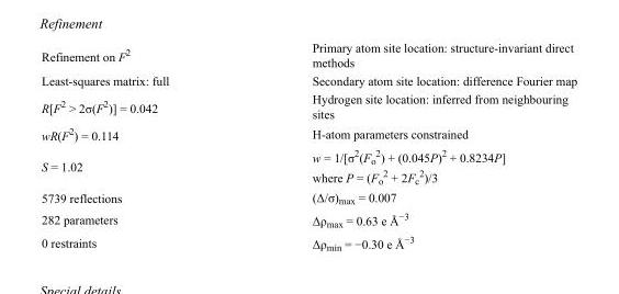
<table><tbody><tr><td>Refinement on F<sup>2</sup></td><td>Primary atom site location: structure-invariant direct methods</td></tr><tr><td>Least-squares matrix: full</td><td>Secondary atom site location: difference Fourier map</td></tr><tr><td>R[F<sup>2</sup> &gt; 2σ(F<sup>2</sup>)] = 0.042</td><td>Hydrogen site location: inferred from neighbouring sites</td></tr><tr><td>wR(F<sup>2</sup>) = 0.114</td><td>H-atom parameters constrained</td></tr><tr><td>S = 1.02</td><td>w = 1/[σ<sup>2</sup>(F<sub>o</sub> <sup>2</sup>) + (0.045P)<sup>2</sup> + 0.8234P] where P = (F<sub>o</sub> <sup>2</sup> + 2F<sub>c</sub> <sup>2</sup>)/3</td></tr><tr><td>5739 reflections</td><td>(Δ/σ)<sub>max</sub> = 0.007</td></tr><tr><td>282 parameters</td><td>Δρ<sub>max</sub> = 0.63 e Å<sup>−3</sup></td></tr><tr><td>0 restraints</td><td>Δρ<sub>min</sub> = −0.30 e Å<sup>−3</sup></td></tr></tbody></table>